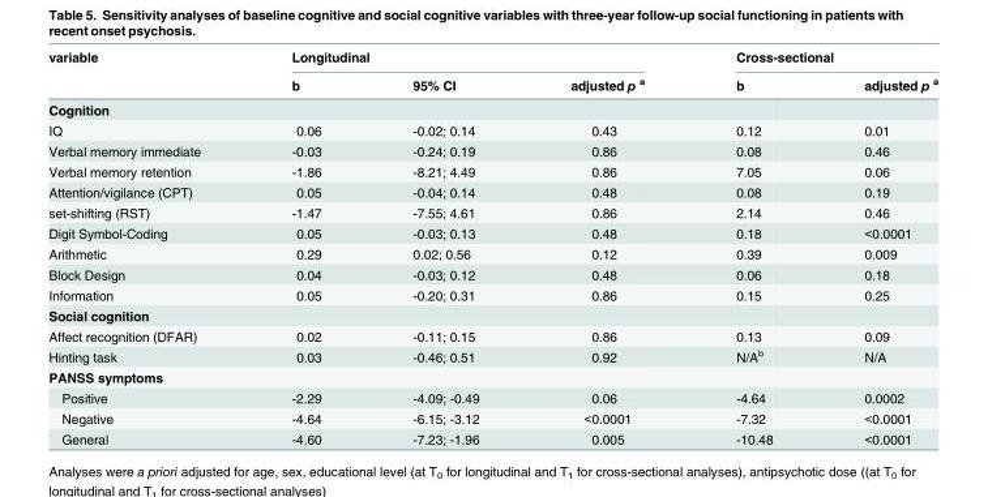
<table><thead><tr><td rowspan="2">variable</td><td colspan="3">Longitudinal</td><td colspan="2">Cross-sectional</td></tr><tr><td>b</td><td>95% CI</td><td>adjusted p <sup>a</sup></td><td>b</td><td>adjusted p <sup>a</sup></td></tr></thead><tbody><tr><td colspan="6">Cognition</td></tr><tr><td>IQ</td><td>0.06</td><td>-0.02; 0.14</td><td>0.43</td><td>0.12</td><td>0.01</td></tr><tr><td>Verbal memory immediate</td><td>-0.03</td><td>-0.24; 0.19</td><td>0.86</td><td>0.08</td><td>0.46</td></tr><tr><td>Verbal memory retention</td><td>-1.86</td><td>-8.21; 4.49</td><td>0.86</td><td>7.05</td><td>0.06</td></tr><tr><td>Attention/vigilance (CPT)</td><td>0.05</td><td>-0.04; 0.14</td><td>0.48</td><td>0.08</td><td>0.19</td></tr><tr><td>set-shifting (RST)</td><td>-1.47</td><td>-7.55; 4.61</td><td>0.86</td><td>2.14</td><td>0.46</td></tr><tr><td>Digit Symbol-Coding</td><td>0.05</td><td>-0.03; 0.13</td><td>0.48</td><td>0.18</td><td>&lt;0.0001</td></tr><tr><td>Arithmetic</td><td>0.29</td><td>0.02; 0.56</td><td>0.12</td><td>0.39</td><td>0.009</td></tr><tr><td>Block Design</td><td>0.04</td><td>-0.03; 0.12</td><td>0.48</td><td>0.06</td><td>0.18</td></tr><tr><td>Information</td><td>0.05</td><td>-0.20; 0.31</td><td>0.86</td><td>0.15</td><td>0.25</td></tr><tr><td colspan="6">Social cognition</td></tr><tr><td>Affect recognition (DFAR)</td><td>0.02</td><td>-0.11; 0.15</td><td>0.86</td><td>0.13</td><td>0.09</td></tr><tr><td>Hinting task</td><td>0.03</td><td>-0.46; 0.51</td><td>0.92</td><td>N/A<sup>b</sup></td><td>N/A</td></tr><tr><td colspan="6">PANSS symptoms</td></tr><tr><td>Positive</td><td>-2.29</td><td>-4.09; -0.49</td><td>0.06</td><td>-4.64</td><td>0.0002</td></tr><tr><td>Negative</td><td>-4.64</td><td>-6.15; -3.12</td><td>&lt;0.0001</td><td>-7.32</td><td>&lt;0.0001</td></tr><tr><td>General</td><td>-4.60</td><td>-7.23; -1.96</td><td>0.005</td><td>-10.48</td><td>&lt;0.0001</td></tr></tbody></table>